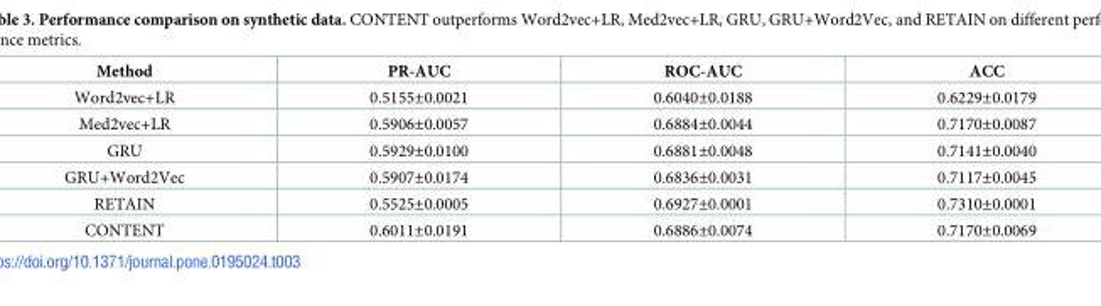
<table><thead><tr><td>Method</td><td>PR-AUC</td><td>ROC-AUC</td><td>ACC</td></tr></thead><tbody><tr><td>Word2vec+LR</td><td>0.5155±0.0021</td><td>0.6040±0.0188</td><td>0.6229±0.0179</td></tr><tr><td>Med2vec+LR</td><td>0.5906±0.0057</td><td>0.6884±0.0044</td><td>0.7170±0.0087</td></tr><tr><td>GRU</td><td>0.5929±0.0100</td><td>0.6881±0.0048</td><td>0.7141±0.0040</td></tr><tr><td>GRU+Word2Vec</td><td>0.5907±0.0174</td><td>0.6836±0.0031</td><td>0.7117±0.0045</td></tr><tr><td>RETAIN</td><td>0.5525±0.0005</td><td>0.6927±0.0001</td><td>0.7310±0.0001</td></tr><tr><td>CONTENT</td><td>0.6011±0.0191</td><td>0.6886±0.0074</td><td>0.7170±0.0069</td></tr></tbody></table>